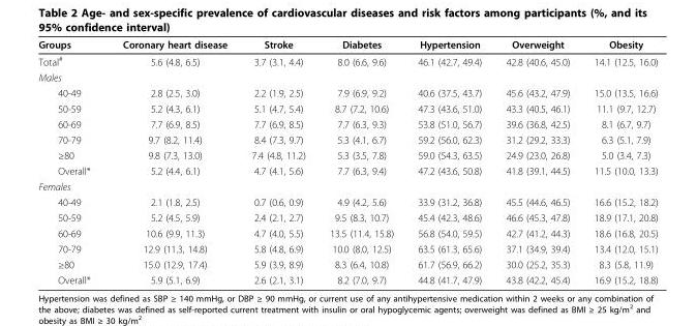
<table><thead><tr><td>Groups</td><td>Coronary heart disease</td><td>Stroke</td><td>Diabetes</td><td>Hypertension</td><td>Overweight</td><td>Obesity</td></tr></thead><tbody><tr><td>Total<sup>#</sup></td><td>5.6 (4.8, 6.5)</td><td>3.7 (3.1, 4.4)</td><td>8.0 (6.6, 9.6)</td><td>46.1 (42.7, 49.4)</td><td>42.8 (40.6, 45.0)</td><td>14.1 (12.5, 16.0)</td></tr><tr><td colspan="7">Males</td></tr><tr><td>40-49</td><td>2.8 (2.5, 3.0)</td><td>2.2 (1.9, 2.5)</td><td>7.9 (6.9, 9.2)</td><td>40.6 (37.5, 43.7)</td><td>45.6 (43.2, 47.9)</td><td>15.0 (13.5, 16.6)</td></tr><tr><td>50-59</td><td>5.2 (4.3, 6.1)</td><td>5.1 (4.7, 5.4)</td><td>8.7 (7.2, 10.6)</td><td>47.3 (43.6, 51.0)</td><td>43.3 (40.5, 46.1)</td><td>11.1 (9.7, 12.7)</td></tr><tr><td>60-69</td><td>7.7 (6.9, 8.5)</td><td>7.7 (6.9, 8.5)</td><td>7.7 (6.3, 9.3)</td><td>53.8 (51.0, 56.7)</td><td>39.6 (36.8, 42.5)</td><td>8.1 (6.7, 9.7)</td></tr><tr><td>70-79</td><td>9.7 (8.2, 11.4)</td><td>8.4 (7.3, 9.7)</td><td>5.3 (4.1, 6.7)</td><td>59.2 (56.0, 62.3)</td><td>31.2 (29.2, 33.3)</td><td>6.3 (5.1, 7.9)</td></tr><tr><td>≥80</td><td>9.8 (7.3, 13.0)</td><td>7.4 (4.8, 11.2)</td><td>5.3 (3.5, 7.8)</td><td>59.0 (54.3, 63.5)</td><td>24.9 (23.0, 26.8)</td><td>5.0 (3.4, 7.3)</td></tr><tr><td>Overall*</td><td>5.2 (4.4, 6.1)</td><td>4.7 (4.1, 5.6)</td><td>7.7 (6.3, 9.4)</td><td>47.2 (43.6, 50.8)</td><td>41.8 (39.1, 44.5)</td><td>11.5 (10.0, 13.3)</td></tr><tr><td colspan="7">Females</td></tr><tr><td>40-49</td><td>2.1 (1.8, 2.5)</td><td>0.7 (0.6, 0.9)</td><td>4.9 (4.2, 5.6)</td><td>33.9 (31.2, 36.8)</td><td>45.5 (44.6, 46.5)</td><td>16.6 (15.2, 18.2)</td></tr><tr><td>50-59</td><td>5.2 (4.5, 5.9)</td><td>2.4 (2.1, 2.7)</td><td>9.5 (8.3, 10.7)</td><td>45.4 (42.3, 48.6)</td><td>46.6 (45.3, 47.8)</td><td>18.9 (17.1, 20.8)</td></tr><tr><td>60-69</td><td>10.6 (9.9, 11.3)</td><td>4.7 (4.0, 5.5)</td><td>13.5 (11.4, 15.8)</td><td>56.8 (54.0, 59.5)</td><td>42.7 (41.2, 44.3)</td><td>18.6 (16.8, 20.5)</td></tr><tr><td>70-79</td><td>12.9 (11.3, 14.8)</td><td>5.8 (4.8, 6.9)</td><td>10.0 (8.0, 12.5)</td><td>63.5 (61.3, 65.6)</td><td>37.1 (34.9, 39.4)</td><td>13.4 (12.0, 15.1)</td></tr><tr><td>≥80</td><td>15.0 (12.9, 17.4)</td><td>5.9 (3.9, 8.9)</td><td>8.3 (6.4, 10.8)</td><td>61.7 (56.9, 66.2)</td><td>30.0 (25.2, 35.3)</td><td>8.3 (5.8, 11.9)</td></tr><tr><td>Overall*</td><td>5.9 (5.1, 6.9)</td><td>2.6 (2.1, 3.1)</td><td>8.2 (7.0, 9.7)</td><td>44.8 (41.7, 47.9)</td><td>43.8 (42.2, 45.4)</td><td>16.9 (15.2, 18.8)</td></tr></tbody></table>